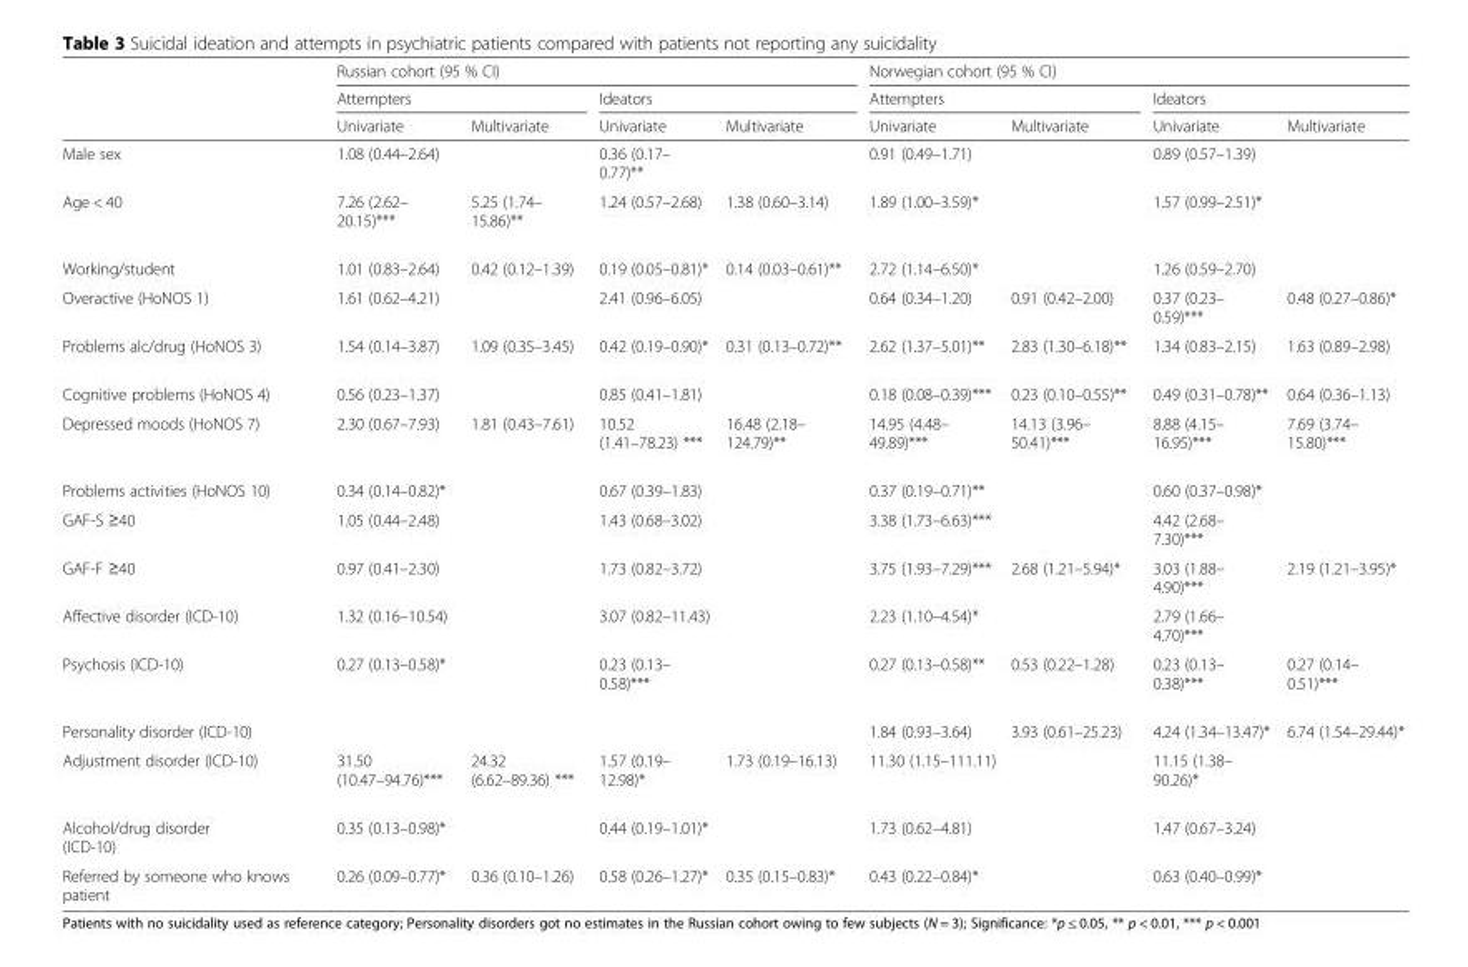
<table><thead><tr><td rowspan="3"></td><td colspan="4">Russian cohort (95 % CI)</td><td colspan="4">Norwegian cohort (95 % CI)</td></tr><tr><td colspan="2">Attempters</td><td colspan="2">Ideators</td><td colspan="2">Attempters</td><td colspan="2">Ideators</td></tr><tr><td>Univariate</td><td>Multivariate</td><td>Univariate</td><td>Multivariate</td><td>Univariate</td><td>Multivariate</td><td>Univariate</td><td>Multivariate</td></tr></thead><tbody><tr><td>Male sex</td><td>1.08 (0.44–2.64)</td><td></td><td>0.36 (0.17– 0.77)**</td><td></td><td>0.91 (0.49–1.71)</td><td></td><td>0.89 (0.57–1.39)</td><td></td></tr><tr><td>Age &lt; 40</td><td>7.26 (2.62– 20.15)***</td><td>5.25 (1.74– 15.86)**</td><td>1.24 (0.57–2.68)</td><td>1.38 (0.60–3.14)</td><td>1.89 (1.00–3.59)*</td><td></td><td>1.57 (0.99–2.51)*</td><td></td></tr><tr><td>Working/student</td><td>1.01 (0.83–2.64)</td><td>0.42 (0.12–1.39)</td><td>0.19 (0.05–0.81)*</td><td>0.14 (0.03–0.61)**</td><td>2.72 (1.14–6.50)*</td><td></td><td>1.26 (0.59–2.70)</td><td></td></tr><tr><td>Overactive (HoNOS 1)</td><td>1.61 (0.62–4.21)</td><td></td><td>2.41 (0.96–6.05)</td><td></td><td>0.64 (0.34–1.20)</td><td>0.91 (0.42–2.00)</td><td>0.37 (0.23– 0.59)***</td><td>0.48 (0.27–0.86)*</td></tr><tr><td>Problems alc/drug (HoNOS 3)</td><td>1.54 (0.14–3.87)</td><td>1.09 (0.35–3.45)</td><td>0.42 (0.19–0.90)*</td><td>0.31 (0.13–0.72)**</td><td>2.62 (1.37–5.01)**</td><td>2.83 (1.30–6.18)**</td><td>1.34 (0.83–2.15)</td><td>1.63 (0.89–2.98)</td></tr><tr><td>Cognitive problems (HoNOS 4)</td><td>0.56 (0.23–1.37)</td><td></td><td>0.85 (0.41–1.81)</td><td></td><td>0.18 (0.08–0.39)***</td><td>0.23 (0.10–0.55)**</td><td>0.49 (0.31–0.78)**</td><td>0.64 (0.36–1.13)</td></tr><tr><td>Depressed moods (HoNOS 7)</td><td>2.30 (0.67–7.93)</td><td>1.81 (0.43–7.61)</td><td>10.52 (1.41–78.23) ***</td><td>16.48 (2.18– 124.79)**</td><td>14.95 (4.48– 49.89)***</td><td>14.13 (3.96– 50.41)***</td><td>8.88 (4.15– 16.95)***</td><td>7.69 (3.74– 15.80)***</td></tr><tr><td>Problems activities (HoNOS 10)</td><td>0.34 (0.14–0.82)*</td><td></td><td>0.67 (0.39–1.83)</td><td></td><td>0.37 (0.19–0.71)**</td><td></td><td>0.60 (0.37–0.98)*</td><td></td></tr><tr><td>GAF-S ≥40</td><td>1.05 (0.44–2.48)</td><td></td><td>1.43 (0.68–3.02)</td><td></td><td>3.38 (1.73–6.63)***</td><td></td><td>4.42 (2.68– 7.30)***</td><td></td></tr><tr><td>GAF-F ≥40</td><td>0.97 (0.41–2.30)</td><td></td><td>1.73 (0.82–3.72)</td><td></td><td>3.75 (1.93–7.29)***</td><td>2.68 (1.21–5.94)*</td><td>3.03 (1.88– 4.90)***</td><td>2.19 (1.21–3.95)*</td></tr><tr><td>Affective disorder (ICD-10)</td><td>1.32 (0.16–10.54)</td><td></td><td>3.07 (0.82–11.43)</td><td></td><td>2.23 (1.10–4.54)*</td><td></td><td>2.79 (1.66– 4.70)***</td><td></td></tr><tr><td>Psychosis (ICD-10)</td><td>0.27 (0.13–0.58)*</td><td></td><td>0.23 (0.13– 0.58)***</td><td></td><td>0.27 (0.13–0.58)**</td><td>0.53 (0.22–1.28)</td><td>0.23 (0.13– 0.38)***</td><td>0.27 (0.14– 0.51)***</td></tr><tr><td>Personality disorder (ICD-10)</td><td></td><td></td><td></td><td></td><td>1.84 (0.93–3.64)</td><td>3.93 (0.61–25.23)</td><td>4.24 (1.34–13.47)*</td><td>6.74 (1.54–29.44)*</td></tr><tr><td>Adjustment disorder (ICD-10)</td><td>31.50 (10.47–94.76)***</td><td>24.32 (6.62–89.36) ***</td><td>1.57 (0.19– 12.98)*</td><td>1.73 (0.19–16.13)</td><td>11.30 (1.15–111.11)</td><td></td><td>11.15 (1.38– 90.26)*</td><td></td></tr><tr><td>Alcohol/drug disorder (ICD-10)</td><td>0.35 (0.13–0.98)*</td><td></td><td>0.44 (0.19–1.01)*</td><td></td><td>1.73 (0.62–4.81)</td><td></td><td>1.47 (0.67–3.24)</td><td></td></tr><tr><td>Referred by someone who knows patient</td><td>0.26 (0.09–0.77)*</td><td>0.36 (0.10–1.26)</td><td>0.58 (0.26–1.27)*</td><td>0.35 (0.15–0.83)*</td><td>0.43 (0.22–0.84)*</td><td></td><td>0.63 (0.40–0.99)*</td><td></td></tr></tbody></table>